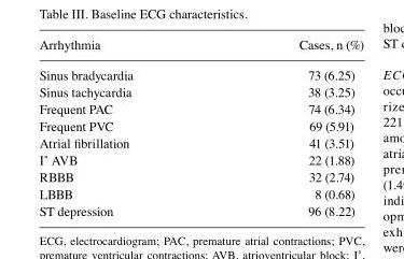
<table><thead><tr><td>Arrhythmia</td><td>Cases, n (%)</td></tr></thead><tbody><tr><td>Sinus bradycardia</td><td>73 (6.25)</td></tr><tr><td>Sinus tachycardia</td><td>38 (3.25)</td></tr><tr><td>Frequent PAC</td><td>74 (6.34)</td></tr><tr><td>Frequent PVC</td><td>69 (5.91)</td></tr><tr><td>Atrial fibrillation</td><td>41 (3.51)</td></tr><tr><td>I˚ AVB</td><td>22 (1.88)</td></tr><tr><td>RBBB</td><td>32 (2.74)</td></tr><tr><td>LBBB</td><td>8 (0.68)</td></tr><tr><td>ST depression</td><td>96 (8.22)</td></tr></tbody></table>